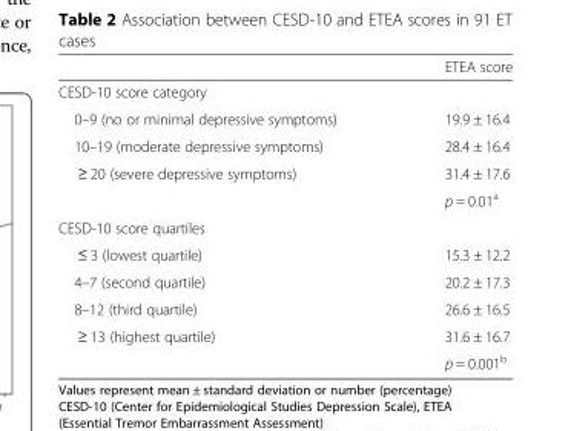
<table><thead><tr><td></td><td>ETEA score</td></tr></thead><tbody><tr><td colspan="2">CESD-10 score category</td></tr><tr><td>0–9 (no or minimal depressive symptoms)</td><td>19.9 ± 16.4</td></tr><tr><td>10–19 (moderate depressive symptoms)</td><td>28.4 ± 16.4</td></tr><tr><td rowspan="2">≥ 20 (severe depressive symptoms)</td><td>31.4 ± 17.6</td></tr><tr><td>p = 0.01<sup>a</sup></td></tr><tr><td colspan="2">CESD-10 score quartiles</td></tr><tr><td>≤ 3 (lowest quartile)</td><td>15.3 ± 12.2</td></tr><tr><td>4–7 (second quartile)</td><td>20.2 ± 17.3</td></tr><tr><td>8–12 (third quartile)</td><td>26.6 ± 16.5</td></tr><tr><td rowspan="2">≥ 13 (highest quartile)</td><td>31.6 ± 16.7</td></tr><tr><td>p = 0.001<sup>b</sup></td></tr></tbody></table>